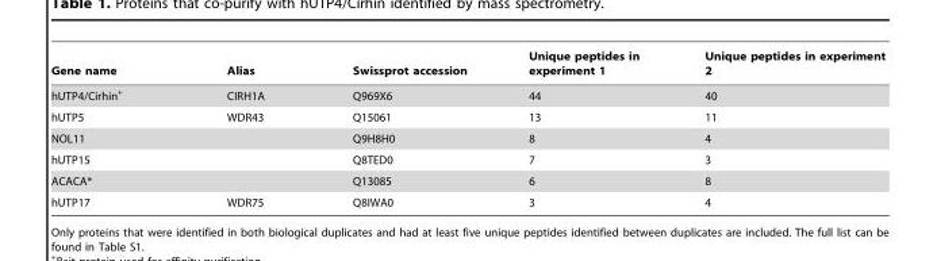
<table><thead><tr><td>Gene name</td><td>Alias</td><td>Swissprot accession</td><td>Unique peptides in experiment 1</td><td>Unique peptides in experiment 2</td></tr></thead><tbody><tr><td>hUTP4/Cirhin+</td><td>CIRH1A</td><td>Q969X6</td><td>44</td><td>40</td></tr><tr><td>hUTP5</td><td>WDR43</td><td>Q15061</td><td>13</td><td>11</td></tr><tr><td>NOL11</td><td></td><td>Q9H8H0</td><td>8</td><td>4</td></tr><tr><td>hUTP15</td><td></td><td>Q8TED0</td><td>7</td><td>3</td></tr><tr><td>ACACA*</td><td></td><td>Q13085</td><td>6</td><td>8</td></tr><tr><td>hUTP17</td><td>WDR75</td><td>Q8IWA0</td><td>3</td><td>4</td></tr></tbody></table>